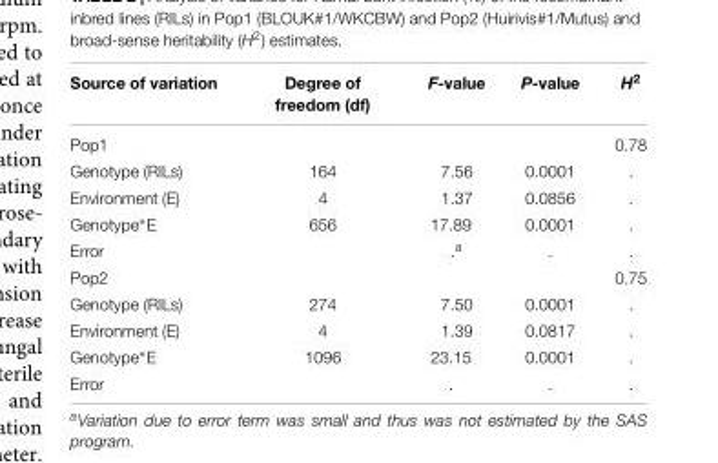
<table><thead><tr><td>Source of variation</td><td>Degree of freedom (df)</td><td>F-value</td><td>P-value</td><td>H<sup>2</sup></td></tr></thead><tbody><tr><td>Pop1</td><td></td><td></td><td></td><td>0.78</td></tr><tr><td>Genotype (RILs)</td><td>164</td><td>7.56</td><td>0.0001</td><td>.</td></tr><tr><td>Environment (E)</td><td>4</td><td>1.37</td><td>0.0856</td><td>.</td></tr><tr><td>Genotype∗E</td><td>656</td><td>17.89</td><td>0.0001</td><td>.</td></tr><tr><td>Error</td><td></td><td>.<sup>a</sup></td><td>.</td><td>.</td></tr><tr><td>Pop2</td><td></td><td></td><td></td><td>0.75</td></tr><tr><td>Genotype (RILs)</td><td>274</td><td>7.50</td><td>0.0001</td><td>.</td></tr><tr><td>Environment (E)</td><td>4</td><td>1.39</td><td>0.0817</td><td>.</td></tr><tr><td>Genotype∗E</td><td>1096</td><td>23.15</td><td>0.0001</td><td>.</td></tr><tr><td>Error</td><td></td><td>.</td><td>.</td><td>.</td></tr></tbody></table>